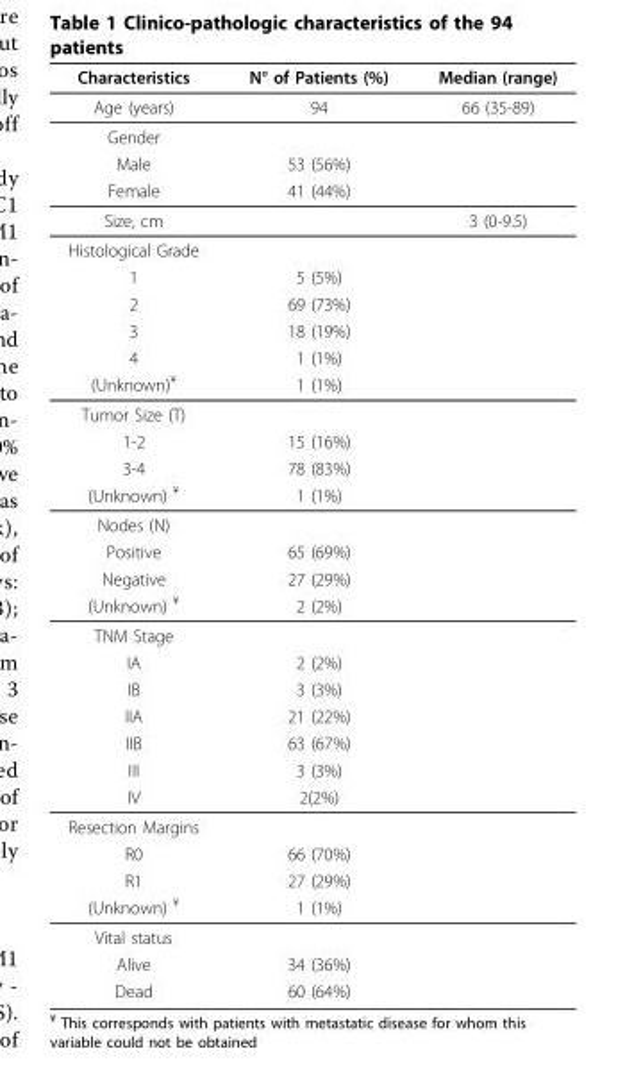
<table><thead><tr><td>Characteristics</td><td>N° of Patients (%)</td><td>Median (range)</td></tr></thead><tbody><tr><td>Age (years)</td><td>94</td><td>66 (35-89)</td></tr><tr><td colspan="3">Gender</td></tr><tr><td>Male</td><td>53 (56%)</td><td></td></tr><tr><td>Female</td><td>41 (44%)</td><td></td></tr><tr><td>Size, cm</td><td></td><td>3 (0-9.5)</td></tr><tr><td colspan="3">Histological Grade</td></tr><tr><td>1</td><td>5 (5%)</td><td></td></tr><tr><td>2</td><td>69 (73%)</td><td></td></tr><tr><td>3</td><td>18 (19%)</td><td></td></tr><tr><td>4</td><td>1 (1%)</td><td></td></tr><tr><td>(Unknown)<sup>¥</sup></td><td>1 (1%)</td><td></td></tr><tr><td colspan="3">Tumor Size (T)</td></tr><tr><td>1-2</td><td>15 (16%)</td><td></td></tr><tr><td>3-4</td><td>78 (83%)</td><td></td></tr><tr><td>(Unknown) <sup>¥</sup></td><td>1 (1%)</td><td></td></tr><tr><td colspan="3">Nodes (N)</td></tr><tr><td>Positive</td><td>65 (69%)</td><td></td></tr><tr><td>Negative</td><td>27 (29%)</td><td></td></tr><tr><td>(Unknown) <sup>¥</sup></td><td>2 (2%)</td><td></td></tr><tr><td colspan="3">TNM Stage</td></tr><tr><td>IA</td><td>2 (2%)</td><td></td></tr><tr><td>IB</td><td>3 (3%)</td><td></td></tr><tr><td>IIA</td><td>21 (22%)</td><td></td></tr><tr><td>IIB</td><td>63 (67%)</td><td></td></tr><tr><td>III</td><td>3 (3%)</td><td></td></tr><tr><td>IV</td><td>2(2%)</td><td></td></tr><tr><td colspan="3">Resection Margins</td></tr><tr><td>R0</td><td>66 (70%)</td><td></td></tr><tr><td>R1</td><td>27 (29%)</td><td></td></tr><tr><td>(Unknown) <sup>¥</sup></td><td>1 (1%)</td><td></td></tr><tr><td colspan="3">Vital status</td></tr><tr><td>Alive</td><td>34 (36%)</td><td></td></tr><tr><td>Dead</td><td>60 (64%)</td><td></td></tr></tbody></table>